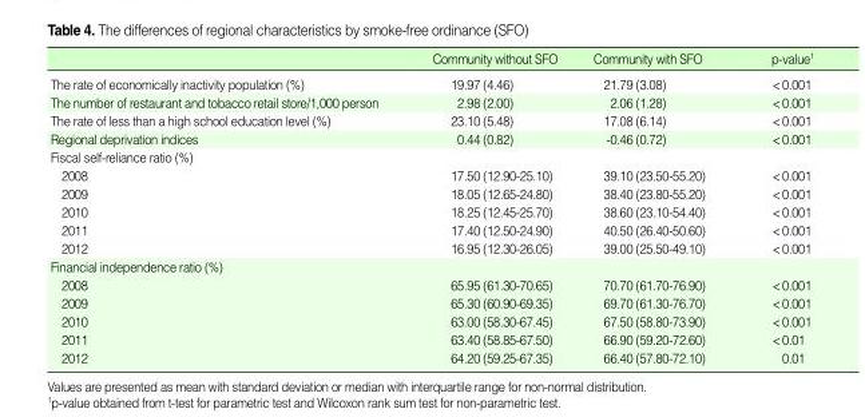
<table><thead><tr><td></td><td>Community without SFO</td><td>Community with SFO</td><td>p-value<sup>1</sup></td></tr></thead><tbody><tr><td>The rate of economically inactivity population (%)</td><td>19.97 (4.46)</td><td>21.79 (3.08)</td><td>&lt;0.001</td></tr><tr><td>The number of restaurant and tobacco retail store/1,000 person</td><td>2.98 (2.00)</td><td>2.06 (1.28)</td><td>&lt;0.001</td></tr><tr><td>The rate of less than a high school education level (%)</td><td>23.10 (5.48)</td><td>17.08 (6.14)</td><td>&lt;0.001</td></tr><tr><td>Regional deprivation indices</td><td>0.44 (0.82)</td><td>-0.46 (0.72)</td><td>&lt;0.001</td></tr><tr><td colspan="4">Fiscal self-reliance ratio (%)</td></tr><tr><td>2008</td><td>17.50 (12.90-25.10)</td><td>39.10 (23.50-55.20)</td><td>&lt;0.001</td></tr><tr><td>2009</td><td>18.05 (12.65-24.80)</td><td>38.40 (23.80-55.20)</td><td>&lt;0.001</td></tr><tr><td>2010</td><td>18.25 (12.45-25.70)</td><td>38.60 (23.10-54.40)</td><td>&lt;0.001</td></tr><tr><td>2011</td><td>17.40 (12.50-24.90)</td><td>40.50 (26.40-50.60)</td><td>&lt;0.001</td></tr><tr><td>2012</td><td>16.95 (12.30-26.05)</td><td>39.00 (25.50-49.10)</td><td>&lt;0.001</td></tr><tr><td colspan="4">Financial independence ratio (%)</td></tr><tr><td>2008</td><td>65.95 (61.30-70.65)</td><td>70.70 (61.70-76.90)</td><td>&lt;0.001</td></tr><tr><td>2009</td><td>65.30 (60.90-69.35)</td><td>69.70 (61.30-76.70)</td><td>&lt;0.001</td></tr><tr><td>2010</td><td>63.00 (58.30-67.45)</td><td>67.50 (58.80-73.90)</td><td>&lt;0.001</td></tr><tr><td>2011</td><td>63.40 (58.85-67.50)</td><td>66.90 (59.20-72.60)</td><td>&lt;0.01</td></tr><tr><td>2012</td><td>64.20 (59.25-67.35)</td><td>66.40 (57.80-72.10)</td><td>0.01</td></tr></tbody></table>